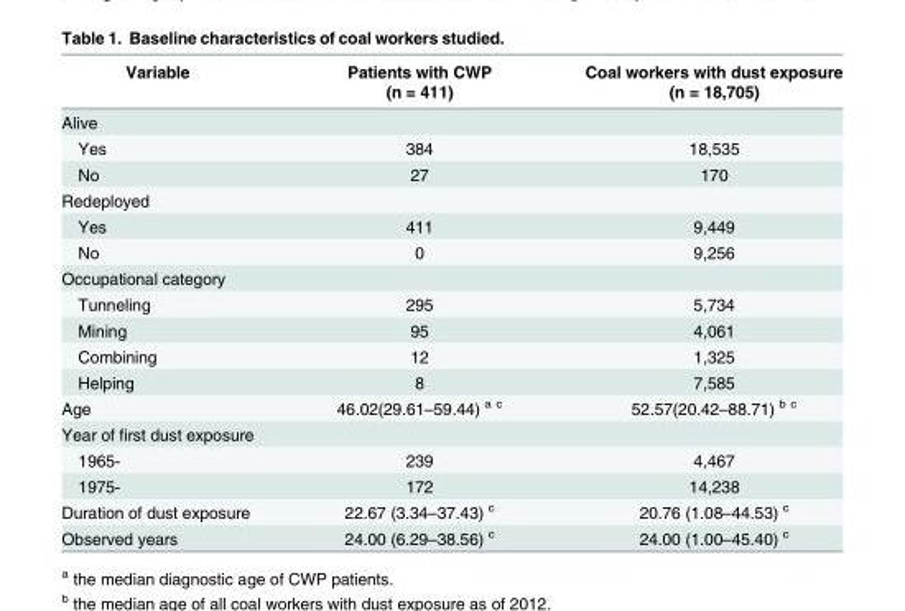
<table><thead><tr><td rowspan="2">Variable</td><td rowspan="2">Patients with CWP (n = 411)</td><td rowspan="2">Coal workers with dust exposure (n = 18,705)</td></tr><tr></tr></thead><tbody><tr><td colspan="3">Alive</td></tr><tr><td>Yes</td><td>384</td><td>18,535</td></tr><tr><td>No</td><td>27</td><td>170</td></tr><tr><td colspan="3">Redeployed</td></tr><tr><td>Yes</td><td>411</td><td>9,449</td></tr><tr><td>No</td><td>0</td><td>9,256</td></tr><tr><td colspan="3">Occupational category</td></tr><tr><td>Tunneling</td><td>295</td><td>5,734</td></tr><tr><td>Mining</td><td>95</td><td>4,061</td></tr><tr><td>Combining</td><td>12</td><td>1,325</td></tr><tr><td>Helping</td><td>8</td><td>7,585</td></tr><tr><td>Age</td><td>46.02(29.61–59.44) <sup>a c</sup></td><td>52.57(20.42–88.71) <sup>b c</sup></td></tr><tr><td colspan="3">Year of first dust exposure</td></tr><tr><td>1965-</td><td>239</td><td>4,467</td></tr><tr><td>1975-</td><td>172</td><td>14,238</td></tr><tr><td>Duration of dust exposure</td><td>22.67 (3.34–37.43) <sup>c</sup></td><td>20.76 (1.08–44.53) <sup>c</sup></td></tr><tr><td>Observed years</td><td>24.00 (6.29–38.56) <sup>c</sup></td><td>24.00 (1.00–45.40) <sup>c</sup></td></tr></tbody></table>